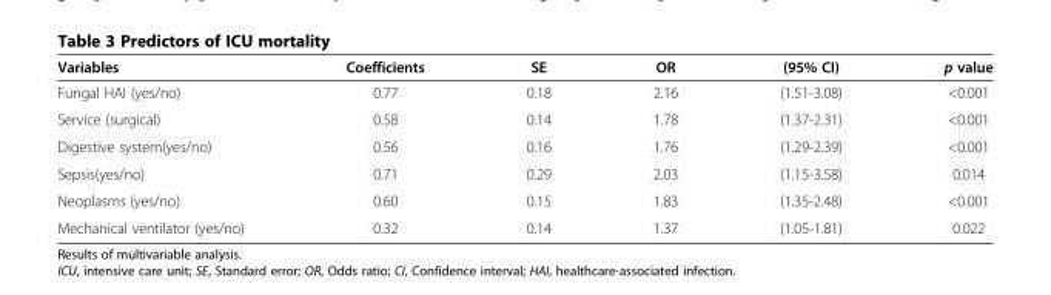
<table><thead><tr><td>Variables</td><td>Coefficients</td><td>SE</td><td>OR</td><td>(95% CI)</td><td>p value</td></tr></thead><tbody><tr><td>Fungal HAI (yes/no)</td><td>0.77</td><td>0.18</td><td>2.16</td><td>(1.51-3.08)</td><td>&lt;0.001</td></tr><tr><td>Service (surgical)</td><td>0.58</td><td>0.14</td><td>1.78</td><td>(1.37-2.31)</td><td>&lt;0.001</td></tr><tr><td>Digestive system(yes/no)</td><td>0.56</td><td>0.16</td><td>1.76</td><td>(1.29-2.39)</td><td>&lt;0.001</td></tr><tr><td>Sepsis(yes/no)</td><td>0.71</td><td>0.29</td><td>2.03</td><td>(1.15-3.58)</td><td>0.014</td></tr><tr><td>Neoplasms (yes/no)</td><td>0.60</td><td>0.15</td><td>1.83</td><td>(1.35-2.48)</td><td>&lt;0.001</td></tr><tr><td>Mechanical ventilator (yes/no)</td><td>0.32</td><td>0.14</td><td>1.37</td><td>(1.05-1.81)</td><td>0.022</td></tr></tbody></table>